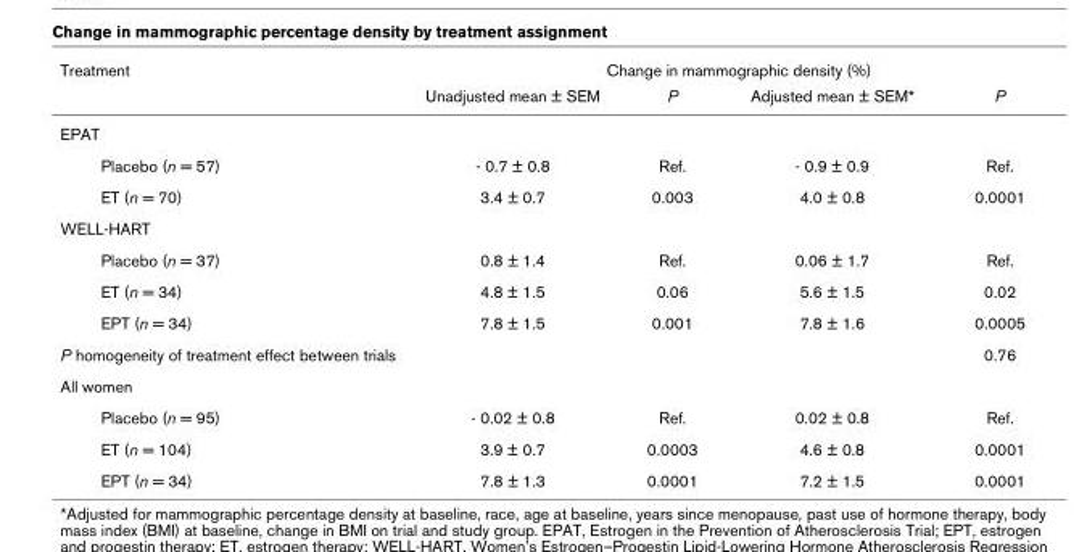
<table><thead><tr><td rowspan="2">Treatment</td><td colspan="4">Change in mammographic density (%)</td></tr><tr><td>Unadjusted mean ± SEM</td><td>P</td><td>Adjusted mean ± SEM*</td><td>P</td></tr></thead><tbody><tr><td colspan="5">EPAT</td></tr><tr><td>Placebo (n = 57)</td><td>- 0.7 ± 0.8</td><td>Ref.</td><td>- 0.9 ± 0.9</td><td>Ref.</td></tr><tr><td>ET (n = 70)</td><td>3.4 ± 0.7</td><td>0.003</td><td>4.0 ± 0.8</td><td>0.0001</td></tr><tr><td colspan="5">WELL-HART</td></tr><tr><td>Placebo (n = 37)</td><td>0.8 ± 1.4</td><td>Ref.</td><td>0.06 ± 1.7</td><td>Ref.</td></tr><tr><td>ET (n = 34)</td><td>4.8 ± 1.5</td><td>0.06</td><td>5.6 ± 1.5</td><td>0.02</td></tr><tr><td>EPT (n = 34)</td><td>7.8 ± 1.5</td><td>0.001</td><td>7.8 ± 1.6</td><td>0.0005</td></tr><tr><td>P homogeneity of treatment effect between trials</td><td></td><td></td><td></td><td>0.76</td></tr><tr><td colspan="5">All women</td></tr><tr><td>Placebo (n = 95)</td><td>- 0.02 ± 0.8</td><td>Ref.</td><td>0.02 ± 0.8</td><td>Ref.</td></tr><tr><td>ET (n = 104)</td><td>3.9 ± 0.7</td><td>0.0003</td><td>4.6 ± 0.8</td><td>0.0001</td></tr><tr><td>EPT (n = 34)</td><td>7.8 ± 1.3</td><td>0.0001</td><td>7.2 ± 1.5</td><td>0.0001</td></tr></tbody></table>